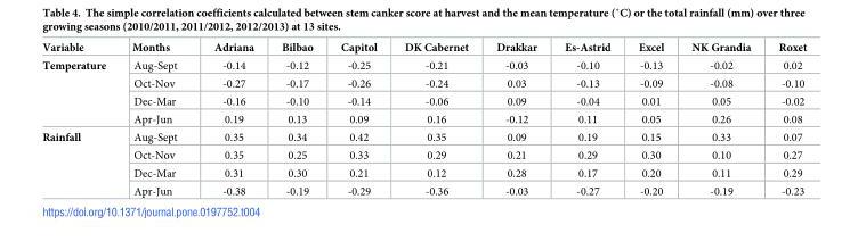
<table><thead><tr><td>Variable</td><td>Months</td><td>Adriana</td><td>Bilbao</td><td>Capitol</td><td>DK Cabernet</td><td>Drakkar</td><td>Es-Astrid</td><td>Excel</td><td>NK Grandia</td><td>Roxet</td></tr></thead><tbody><tr><td rowspan="4">Temperature</td><td>Aug-Sept</td><td>-0.14</td><td>-0.12</td><td>-0.25</td><td>-0.21</td><td>-0.03</td><td>-0.10</td><td>-0.13</td><td>-0.02</td><td>0.02</td></tr><tr><td>Oct-Nov</td><td>-0.27</td><td>-0.17</td><td>-0.26</td><td>-0.24</td><td>0.03</td><td>-0.13</td><td>-0.09</td><td>-0.08</td><td>-0.10</td></tr><tr><td>Dec-Mar</td><td>-0.16</td><td>-0.10</td><td>-0.14</td><td>-0.06</td><td>0.09</td><td>-0.04</td><td>0.01</td><td>0.05</td><td>-0.02</td></tr><tr><td>Apr-Jun</td><td>0.19</td><td>0.13</td><td>0.09</td><td>0.16</td><td>-0.12</td><td>0.11</td><td>0.05</td><td>0.26</td><td>0.08</td></tr><tr><td rowspan="4">Rainfall</td><td>Aug-Sept</td><td>0.35</td><td>0.34</td><td>0.42</td><td>0.35</td><td>0.09</td><td>0.19</td><td>0.15</td><td>0.33</td><td>0.07</td></tr><tr><td>Oct-Nov</td><td>0.35</td><td>0.25</td><td>0.33</td><td>0.29</td><td>0.21</td><td>0.29</td><td>0.30</td><td>0.10</td><td>0.27</td></tr><tr><td>Dec-Mar</td><td>0.31</td><td>0.30</td><td>0.21</td><td>0.12</td><td>0.28</td><td>0.17</td><td>0.20</td><td>0.11</td><td>0.29</td></tr><tr><td>Apr-Jun</td><td>-0.38</td><td>-0.19</td><td>-0.29</td><td>-0.36</td><td>-0.03</td><td>-0.27</td><td>-0.20</td><td>-0.19</td><td>-0.23</td></tr></tbody></table>